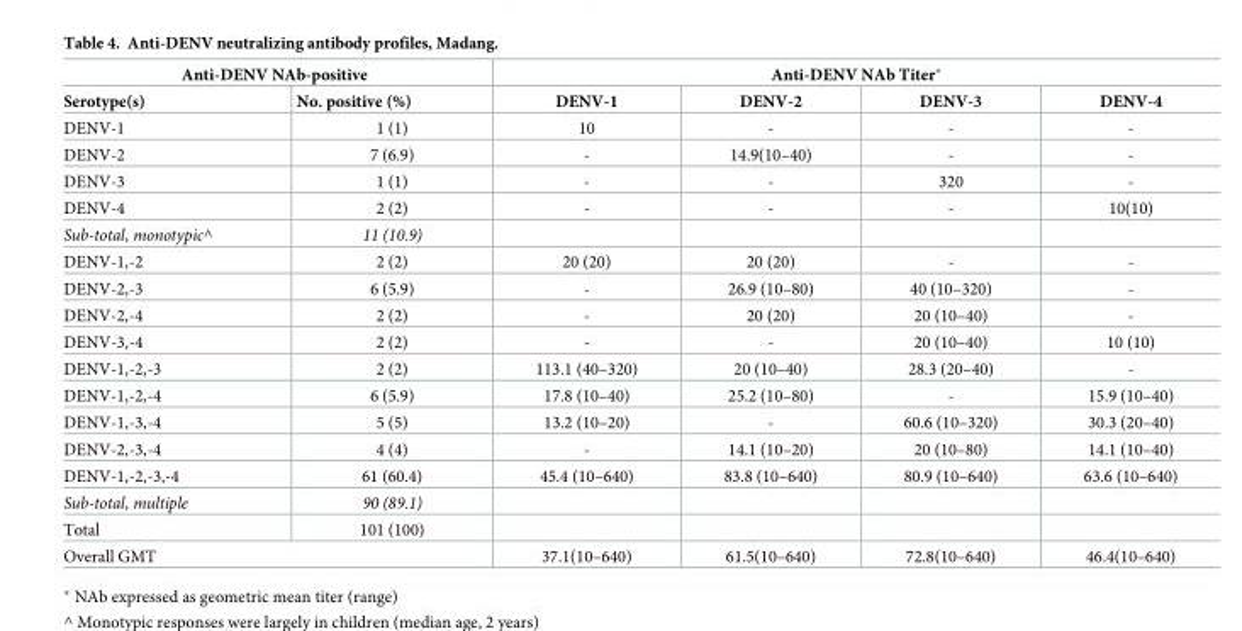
<table><thead><tr><td colspan="2">Anti-DENV NAb-positive</td><td colspan="4">Anti-DENV NAb Titer*</td></tr><tr><td>Serotype(s)</td><td>No. positive (%)</td><td>DENV-1</td><td>DENV-2</td><td>DENV-3</td><td>DENV-4</td></tr></thead><tbody><tr><td>DENV-1</td><td>1 (1)</td><td>10</td><td>-</td><td>-</td><td>-</td></tr><tr><td>DENV-2</td><td>7 (6.9)</td><td>-</td><td>14.9(10–40)</td><td>-</td><td>-</td></tr><tr><td>DENV-3</td><td>1 (1)</td><td>-</td><td>-</td><td>320</td><td>-</td></tr><tr><td>DENV-4</td><td>2 (2)</td><td>-</td><td>-</td><td>-</td><td>10(10)</td></tr><tr><td>Sub-total, monotypic^</td><td>11 (10.9)</td><td></td><td></td><td></td><td></td></tr><tr><td>DENV-1,-2</td><td>2 (2)</td><td>20 (20)</td><td>20 (20)</td><td>-</td><td>-</td></tr><tr><td>DENV-2,-3</td><td>6 (5.9)</td><td>-</td><td>26.9 (10–80)</td><td>40 (10–320)</td><td>-</td></tr><tr><td>DENV-2,-4</td><td>2 (2)</td><td>-</td><td>20 (20)</td><td>20 (10–40)</td><td>-</td></tr><tr><td>DENV-3,-4</td><td>2 (2)</td><td>-</td><td>-</td><td>20 (10–40)</td><td>10 (10)</td></tr><tr><td>DENV-1,-2,-3</td><td>2 (2)</td><td>113.1 (40–320)</td><td>20 (10–40)</td><td>28.3 (20–40)</td><td>-</td></tr><tr><td>DENV-1,-2,-4</td><td>6 (5.9)</td><td>17.8 (10–40)</td><td>25.2 (10–80)</td><td>-</td><td>15.9 (10–40)</td></tr><tr><td>DENV-1,-3,-4</td><td>5 (5)</td><td>13.2 (10–20)</td><td>-</td><td>60.6 (10–320)</td><td>30.3 (20–40)</td></tr><tr><td>DENV-2,-3,-4</td><td>4 (4)</td><td>-</td><td>14.1 (10–20)</td><td>20 (10–80)</td><td>14.1 (10–40)</td></tr><tr><td>DENV-1,-2,-3,-4</td><td>61 (60.4)</td><td>45.4 (10–640)</td><td>83.8 (10–640)</td><td>80.9 (10–640)</td><td>63.6 (10–640)</td></tr><tr><td>Sub-total, multiple</td><td>90 (89.1)</td><td></td><td></td><td></td><td></td></tr><tr><td>Total</td><td>101 (100)</td><td></td><td></td><td></td><td></td></tr><tr><td colspan="2">Overall GMT</td><td>37.1(10–640)</td><td>61.5(10–640)</td><td>72.8(10–640)</td><td>46.4(10–640)</td></tr></tbody></table>